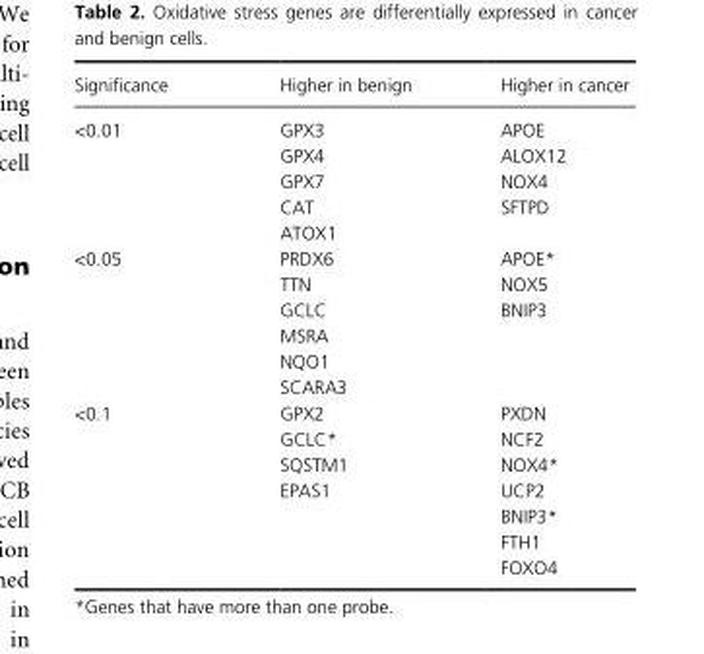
<table><thead><tr><td>Significance</td><td>Higher in benign</td><td>Higher in cancer</td></tr></thead><tbody><tr><td rowspan="5">&lt;0.01</td><td>GPX3</td><td>APOE</td></tr><tr><td>GPX4</td><td>ALOX12</td></tr><tr><td>GPX7</td><td>NOX4</td></tr><tr><td>CAT</td><td>SFTPD</td></tr><tr><td>ATOX1</td><td></td></tr><tr><td rowspan="6">&lt;0.05</td><td>PRDX6</td><td>APOE*</td></tr><tr><td>TTN</td><td>NOX5</td></tr><tr><td>GCLC</td><td>BNIP3</td></tr><tr><td>MSRA</td><td></td></tr><tr><td>NQO1</td><td></td></tr><tr><td>SCARA3</td><td></td></tr><tr><td rowspan="7">&lt;0.1</td><td>GPX2</td><td>PXDN</td></tr><tr><td>GCLC*</td><td>NCF2</td></tr><tr><td>SQSTM1</td><td>NOX4*</td></tr><tr><td>EPAS1</td><td>UCP2</td></tr><tr><td></td><td>BNIP3*</td></tr><tr><td></td><td>FTH1</td></tr><tr><td></td><td>FOXO4</td></tr></tbody></table>